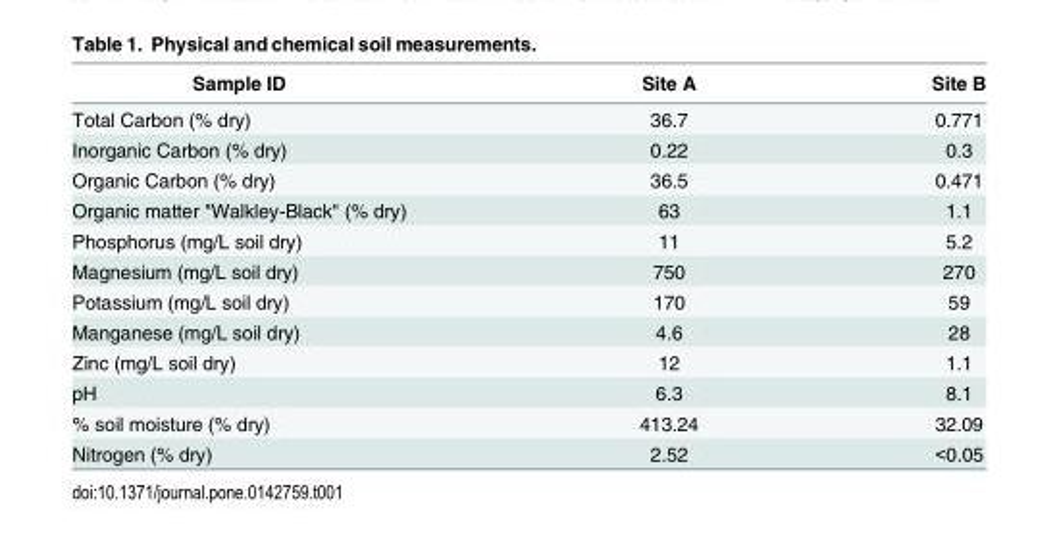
<table><thead><tr><td>Sample ID</td><td>Site A</td><td>Site B</td></tr></thead><tbody><tr><td>Total Carbon (% dry)</td><td>36.7</td><td>0.771</td></tr><tr><td>Inorganic Carbon (% dry)</td><td>0.22</td><td>0.3</td></tr><tr><td>Organic Carbon (% dry)</td><td>36.5</td><td>0.471</td></tr><tr><td>Organic matter &quot;Walkley-Black&quot; (% dry)</td><td>63</td><td>1.1</td></tr><tr><td>Phosphorus (mg/L soil dry)</td><td>11</td><td>5.2</td></tr><tr><td>Magnesium (mg/L soil dry)</td><td>750</td><td>270</td></tr><tr><td>Potassium (mg/L soil dry)</td><td>170</td><td>59</td></tr><tr><td>Manganese (mg/L soil dry)</td><td>4.6</td><td>28</td></tr><tr><td>Zinc (mg/L soil dry)</td><td>12</td><td>1.1</td></tr><tr><td>pH</td><td>6.3</td><td>8.1</td></tr><tr><td>% soil moisture (% dry)</td><td>413.24</td><td>32.09</td></tr><tr><td>Nitrogen (% dry)</td><td>2.52</td><td>&lt;0.05</td></tr></tbody></table>